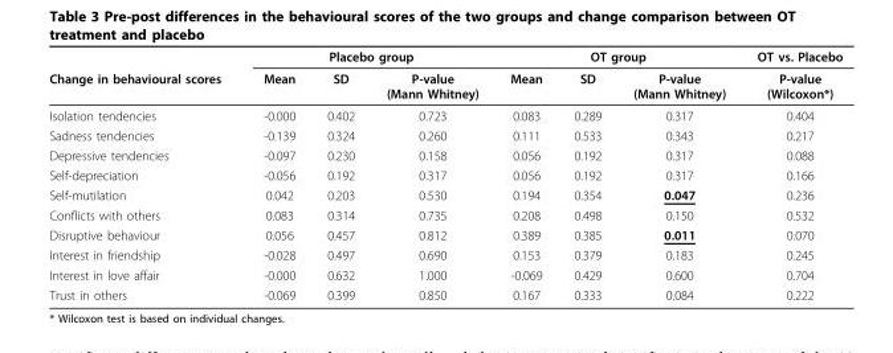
<table><thead><tr><td rowspan="2">Change in behavioural scores</td><td colspan="3">Placebo group</td><td colspan="3">OT group</td><td rowspan="2">OT vs. Placebo P-value (Wilcoxon*)</td></tr><tr><td>Mean</td><td>SD</td><td>P-value (Mann Whitney)</td><td>Mean</td><td>SD</td><td>P-value (Mann Whitney)</td></tr></thead><tbody><tr><td>Isolation tendencies</td><td>-0.000</td><td>0.402</td><td>0.723</td><td>0.083</td><td>0.289</td><td>0.317</td><td>0.404</td></tr><tr><td>Sadness tendencies</td><td>-0.139</td><td>0.324</td><td>0.260</td><td>0.111</td><td>0.533</td><td>0.343</td><td>0.217</td></tr><tr><td>Depressive tendencies</td><td>-0.097</td><td>0.230</td><td>0.158</td><td>0.056</td><td>0.192</td><td>0.317</td><td>0.088</td></tr><tr><td>Self-depreciation</td><td>-0.056</td><td>0.192</td><td>0.317</td><td>0.056</td><td>0.192</td><td>0.317</td><td>0.166</td></tr><tr><td>Self-mutilation</td><td>0.042</td><td>0.203</td><td>0.530</td><td>0.194</td><td>0.354</td><td>0.047</td><td>0.236</td></tr><tr><td>Conflicts with others</td><td>0.083</td><td>0.314</td><td>0.735</td><td>0.208</td><td>0.498</td><td>0.150</td><td>0.532</td></tr><tr><td>Disruptive behaviour</td><td>0.056</td><td>0.457</td><td>0.812</td><td>0.389</td><td>0.385</td><td>0.011</td><td>0.070</td></tr><tr><td>Interest in friendship</td><td>-0.028</td><td>0.497</td><td>0.690</td><td>0.153</td><td>0.379</td><td>0.183</td><td>0.245</td></tr><tr><td>Interest in love affair</td><td>-0.000</td><td>0.632</td><td>1.000</td><td>-0.069</td><td>0.429</td><td>0.600</td><td>0.704</td></tr><tr><td>Trust in others</td><td>-0.069</td><td>0.399</td><td>0.850</td><td>0.167</td><td>0.333</td><td>0.084</td><td>0.222</td></tr></tbody></table>